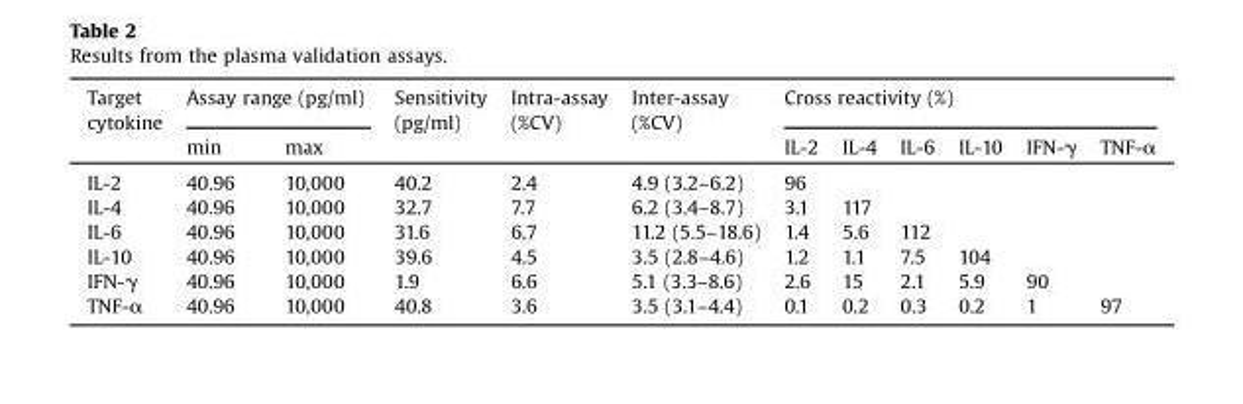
<table><thead><tr><td rowspan="2">Target cytokine</td><td colspan="2">Assay range (pg/ml)</td><td rowspan="2">Sensitivity (pg/ml)</td><td rowspan="2">Intra-assay (%CV)</td><td rowspan="2">Inter-assay (%CV)</td><td colspan="6">Cross reactivity (%)</td></tr><tr><td>min</td><td>max</td><td>IL-2</td><td>IL-4</td><td>IL-6</td><td>IL-10</td><td>IFN-γ</td><td>TNF-α</td></tr></thead><tbody><tr><td>IL-2</td><td>40.96</td><td>10,000</td><td>40.2</td><td>2.4</td><td>4.9 (3.2–6.2)</td><td>96</td><td></td><td></td><td></td><td></td><td></td></tr><tr><td>IL-4</td><td>40.96</td><td>10,000</td><td>32.7</td><td>7.7</td><td>6.2 (3.4–8.7)</td><td>3.1</td><td>117</td><td></td><td></td><td></td><td></td></tr><tr><td>IL-6</td><td>40.96</td><td>10,000</td><td>31.6</td><td>6.7</td><td>11.2 (5.5–18.6)</td><td>1.4</td><td>5.6</td><td>112</td><td></td><td></td><td></td></tr><tr><td>IL-10</td><td>40.96</td><td>10,000</td><td>39.6</td><td>4.5</td><td>3.5 (2.8–4.6)</td><td>1.2</td><td>1.1</td><td>7.5</td><td>104</td><td></td><td></td></tr><tr><td>IFN-γ</td><td>40.96</td><td>10,000</td><td>1.9</td><td>6.6</td><td>5.1 (3.3–8.6)</td><td>2.6</td><td>15</td><td>2.1</td><td>5.9</td><td>90</td><td></td></tr><tr><td>TNF-α</td><td>40.96</td><td>10,000</td><td>40.8</td><td>3.6</td><td>3.5 (3.1–4.4)</td><td>0.1</td><td>0.2</td><td>0.3</td><td>0.2</td><td>1</td><td>97</td></tr></tbody></table>